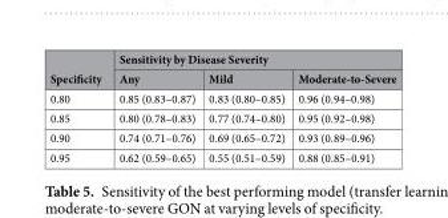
<table><thead><tr><td rowspan="2">Specificity</td><td colspan="3">Sensitivity by Disease Severity</td></tr><tr><td>Any</td><td>Mild</td><td>Moderate-to-Severe</td></tr></thead><tbody><tr><td>0.80</td><td>0.85 (0.83–0.87)</td><td>0.83 (0.80–0.85)</td><td>0.96 (0.94–0.98)</td></tr><tr><td>0.85</td><td>0.80 (0.78–0.83)</td><td>0.77 (0.74–0.80)</td><td>0.95 (0.92–0.98)</td></tr><tr><td>0.90</td><td>0.74 (0.71–0.76)</td><td>0.69 (0.65–0.72)</td><td>0.93 (0.89–0.96)</td></tr><tr><td>0.95</td><td>0.62 (0.59–0.65)</td><td>0.55 (0.51–0.59)</td><td>0.88 (0.85–0.91)</td></tr></tbody></table>